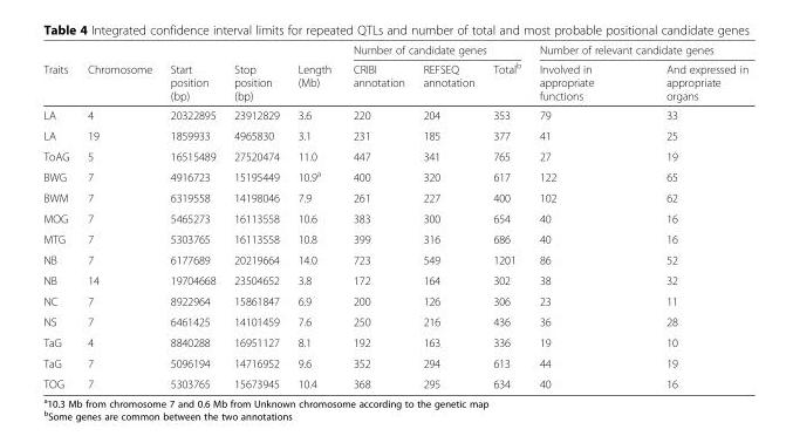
<table><thead><tr><td rowspan="2">Traits</td><td rowspan="2">Chromosome</td><td rowspan="2">Start position (bp)</td><td rowspan="2">Stop position (bp)</td><td rowspan="2">Length (Mb)</td><td colspan="3">Number of candidate genes</td><td colspan="2">Number of relevant candidate genes</td></tr><tr><td>CRIBI annotation</td><td>REFSEQ annotation</td><td>Total<sup>b</sup></td><td>Involved in appropriate functions</td><td>And expressed in appropriate organs</td></tr></thead><tbody><tr><td>LA</td><td>4</td><td>20322895</td><td>23912829</td><td>3.6</td><td>220</td><td>204</td><td>353</td><td>79</td><td>33</td></tr><tr><td>LA</td><td>19</td><td>1859933</td><td>4965830</td><td>3.1</td><td>231</td><td>185</td><td>377</td><td>41</td><td>25</td></tr><tr><td>ToAG</td><td>5</td><td>16515489</td><td>27520474</td><td>11.0</td><td>447</td><td>341</td><td>765</td><td>27</td><td>19</td></tr><tr><td>BWG</td><td>7</td><td>4916723</td><td>15195449</td><td>10.9<sup>a</sup></td><td>400</td><td>320</td><td>617</td><td>122</td><td>65</td></tr><tr><td>BWM</td><td>7</td><td>6319558</td><td>14198046</td><td>7.9</td><td>261</td><td>227</td><td>400</td><td>102</td><td>62</td></tr><tr><td>MOG</td><td>7</td><td>5465273</td><td>16113558</td><td>10.6</td><td>383</td><td>300</td><td>654</td><td>40</td><td>16</td></tr><tr><td>MTG</td><td>7</td><td>5303765</td><td>16113558</td><td>10.8</td><td>399</td><td>316</td><td>686</td><td>40</td><td>16</td></tr><tr><td>NB</td><td>7</td><td>6177689</td><td>20219664</td><td>14.0</td><td>723</td><td>549</td><td>1201</td><td>86</td><td>52</td></tr><tr><td>NB</td><td>14</td><td>19704668</td><td>23504652</td><td>3.8</td><td>172</td><td>164</td><td>302</td><td>38</td><td>32</td></tr><tr><td>NC</td><td>7</td><td>8922964</td><td>15861847</td><td>6.9</td><td>200</td><td>126</td><td>306</td><td>23</td><td>11</td></tr><tr><td>NS</td><td>7</td><td>6461425</td><td>14101459</td><td>7.6</td><td>250</td><td>216</td><td>436</td><td>36</td><td>28</td></tr><tr><td>TaG</td><td>4</td><td>8840288</td><td>16951127</td><td>8.1</td><td>192</td><td>163</td><td>336</td><td>19</td><td>10</td></tr><tr><td>TaG</td><td>7</td><td>5096194</td><td>14716952</td><td>9.6</td><td>352</td><td>294</td><td>613</td><td>44</td><td>19</td></tr><tr><td>TOG</td><td>7</td><td>5303765</td><td>15673945</td><td>10.4</td><td>368</td><td>295</td><td>634</td><td>40</td><td>16</td></tr></tbody></table>